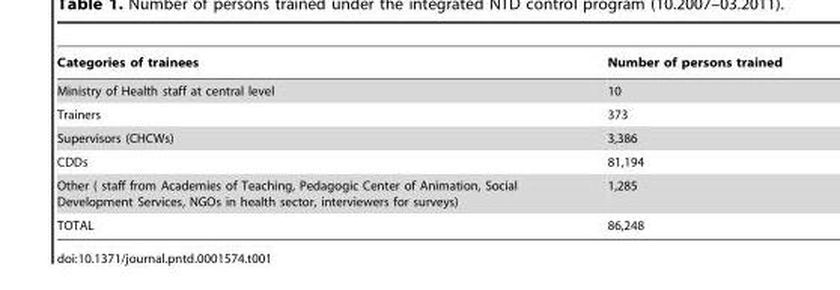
<table><thead><tr><td>Categories of trainees</td><td>Number of persons trained</td></tr></thead><tbody><tr><td>Ministry of Health staff at central level</td><td>10</td></tr><tr><td>Trainers</td><td>373</td></tr><tr><td>Supervisors (CHCWs)</td><td>3,386</td></tr><tr><td>CDDs</td><td>81,194</td></tr><tr><td>Other ( staff from Academies of Teaching, Pedagogic Center of Animation, Social Development Services, NGOs in health sector, interviewers for surveys)</td><td>1,285</td></tr><tr><td>TOTAL</td><td>86,248</td></tr></tbody></table>